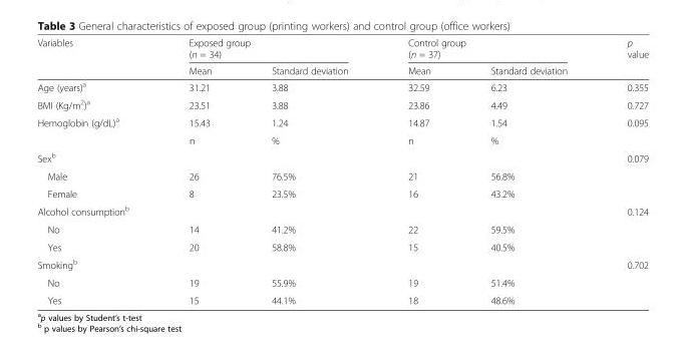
<table><thead><tr><td rowspan="2">Variables</td><td colspan="2">Exposed group (n = 34)</td><td colspan="2">Control group (n = 37)</td><td rowspan="2">p value</td></tr><tr><td>Mean</td><td>Standard deviation</td><td>Mean</td><td>Standard deviation</td></tr></thead><tbody><tr><td>Age (years)<sup>a</sup></td><td>31.21</td><td>3.88</td><td>32.59</td><td>6.23</td><td>0.355</td></tr><tr><td>BMI (Kg/m<sup>2</sup>)<sup>a</sup></td><td>23.51</td><td>3.88</td><td>23.86</td><td>4.49</td><td>0.727</td></tr><tr><td rowspan="2">Hemoglobin (g/dL)<sup>a</sup></td><td>15.43</td><td>1.24</td><td>14.87</td><td>1.54</td><td>0.095</td></tr><tr><td>n</td><td>%</td><td>n</td><td>%</td><td></td></tr><tr><td>Sex<sup>b</sup></td><td></td><td></td><td></td><td></td><td>0.079</td></tr><tr><td>Male</td><td>26</td><td>76.5%</td><td>21</td><td>56.8%</td><td rowspan="2"></td></tr><tr><td>Female</td><td>8</td><td>23.5%</td><td>16</td><td>43.2%</td></tr><tr><td>Alcohol consumption<sup>b</sup></td><td></td><td></td><td></td><td></td><td>0.124</td></tr><tr><td>No</td><td>14</td><td>41.2%</td><td>22</td><td>59.5%</td><td rowspan="2"></td></tr><tr><td>Yes</td><td>20</td><td>58.8%</td><td>15</td><td>40.5%</td></tr><tr><td>Smoking<sup>b</sup></td><td></td><td></td><td></td><td></td><td>0.702</td></tr><tr><td>No</td><td>19</td><td>55.9%</td><td>19</td><td>51.4%</td><td rowspan="2"></td></tr><tr><td>Yes</td><td>15</td><td>44.1%</td><td>18</td><td>48.6%</td></tr></tbody></table>